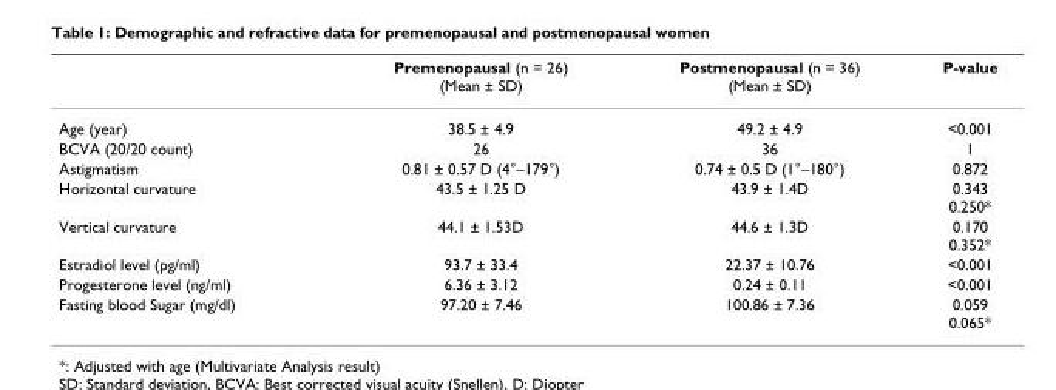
<table><thead><tr><td></td><td>Premenopausal (n = 26) (Mean ± SD)</td><td>Postmenopausal (n = 36) (Mean ± SD)</td><td>P-value</td></tr></thead><tbody><tr><td>Age (year)</td><td>38.5 ± 4.9</td><td>49.2 ± 4.9</td><td>&lt;0.001</td></tr><tr><td>BCVA (20/20 count)</td><td>26</td><td>36</td><td>1</td></tr><tr><td>Astigmatism</td><td>0.81 ± 0.57 D (4°–179°)</td><td>0.74 ± 0.5 D (1°–180°)</td><td>0.872</td></tr><tr><td>Horizontal curvature</td><td>43.5 ± 1.25 D</td><td>43.9 ± 1.4D</td><td>0.343 0.250*</td></tr><tr><td>Vertical curvature</td><td>44.1 ± 1.53D</td><td>44.6 ± 1.3D</td><td>0.170 0.352*</td></tr><tr><td>Estradiol level (pg/ml)</td><td>93.7 ± 33.4</td><td>22.37 ± 10.76</td><td>&lt;0.001</td></tr><tr><td>Progesterone level (ng/ml)</td><td>6.36 ± 3.12</td><td>0.24 ± 0.11</td><td>&lt;0.001</td></tr><tr><td>Fasting blood Sugar (mg/dl)</td><td>97.20 ± 7.46</td><td>100.86 ± 7.36</td><td>0.059 0.065*</td></tr></tbody></table>